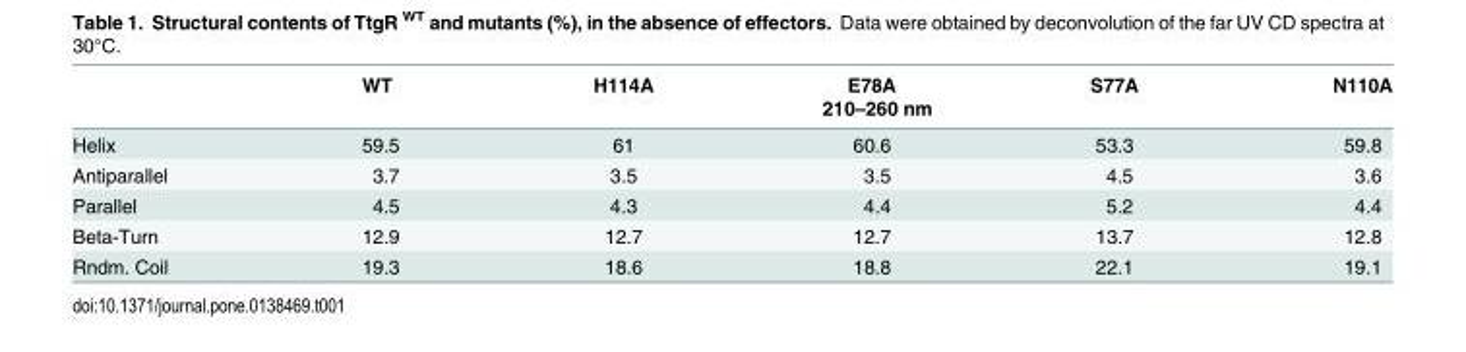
<table><thead><tr><td rowspan="2"></td><td>WT</td><td>H114A</td><td>E78A</td><td>S77A</td><td>N110A</td></tr><tr><td colspan="5">210–260 nm</td></tr></thead><tbody><tr><td>Helix</td><td>59.5</td><td>61</td><td>60.6</td><td>53.3</td><td>59.8</td></tr><tr><td>Antiparallel</td><td>3.7</td><td>3.5</td><td>3.5</td><td>4.5</td><td>3.6</td></tr><tr><td>Parallel</td><td>4.5</td><td>4.3</td><td>4.4</td><td>5.2</td><td>4.4</td></tr><tr><td>Beta-Turn</td><td>12.9</td><td>12.7</td><td>12.7</td><td>13.7</td><td>12.8</td></tr><tr><td>Rndm. Coil</td><td>19.3</td><td>18.6</td><td>18.8</td><td>22.1</td><td>19.1</td></tr></tbody></table>